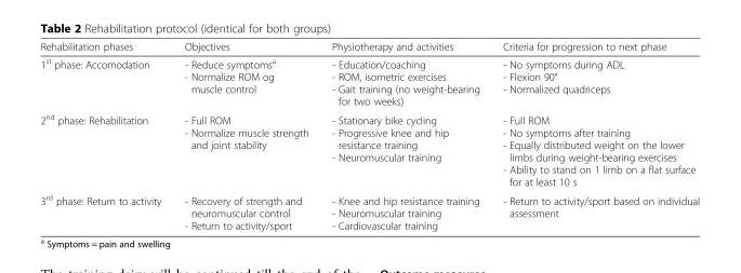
<table><thead><tr><td>Rehabilitation phases</td><td>Objectives</td><td>Physiotherapy and activities</td><td>Criteria for progression to next phase</td></tr></thead><tbody><tr><td>1<sup>st</sup> phase: Accomodation</td><td>- Reduce symptoms<sup>a</sup> - Normalize ROM og muscle control</td><td>- Education/coaching - ROM, isometric exercises - Gait training (no weight-bearing for two weeks)</td><td>- No symptoms during ADL - Flexion 90° - Normalized quadriceps</td></tr><tr><td>2<sup>nd</sup> phase: Rehabilitation</td><td>- Full ROM - Normalize muscle strength and joint stability</td><td>- Stationary bike cycling - Progressive knee and hip resistance training - Neuromuscular training</td><td>- Full ROM - No symptoms after training - Equally distributed weight on the lower limbs during weight-bearing exercises - Ability to stand on 1 limb on a flat surface for at least 10 s</td></tr><tr><td>3<sup>rd</sup> phase: Return to activity</td><td>- Recovery of strength and neuromuscular control - Return to activity/sport</td><td>- Knee and hip resistance training - Neuromuscular training - Cardiovascular training</td><td>- Return to activity/sport based on individual assessment</td></tr></tbody></table>